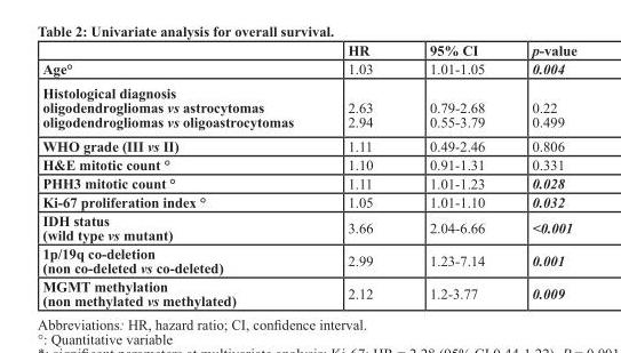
<table><thead><tr><td></td><td>HR</td><td>95% CI</td><td>p-value</td></tr></thead><tbody><tr><td>Age°</td><td>1.03</td><td>1.01-1.05</td><td>0.004</td></tr><tr><td>Histological diagnosis oligodendrogliomas vs astrocytomas oligodendrogliomas vs oligoastrocytomas</td><td>2.63 2.94</td><td>0.79-2.68 0.55-3.79</td><td>0.22 0.499</td></tr><tr><td>WHO grade (III vs II)</td><td>1.11</td><td>0.49-2.46</td><td>0.806</td></tr><tr><td>H&amp;E mitotic count °</td><td>1.10</td><td>0.91-1.31</td><td>0.331</td></tr><tr><td>PHH3 mitotic count °</td><td>1.11</td><td>1.01-1.23</td><td>0.028</td></tr><tr><td>Ki-67 proliferation index °</td><td>1.05</td><td>1.01-1.10</td><td>0.032</td></tr><tr><td>IDH status (wild type vs mutant)</td><td>3.66</td><td>2.04-6.66</td><td>&lt;0.001</td></tr><tr><td>1p/19q co-deletion (non co-deleted vs co-deleted)</td><td>2.99</td><td>1.23-7.14</td><td>0.001</td></tr><tr><td>MGMT methylation (non methylated vs methylated)</td><td>2.12</td><td>1.2-3.77</td><td>0.009</td></tr></tbody></table>